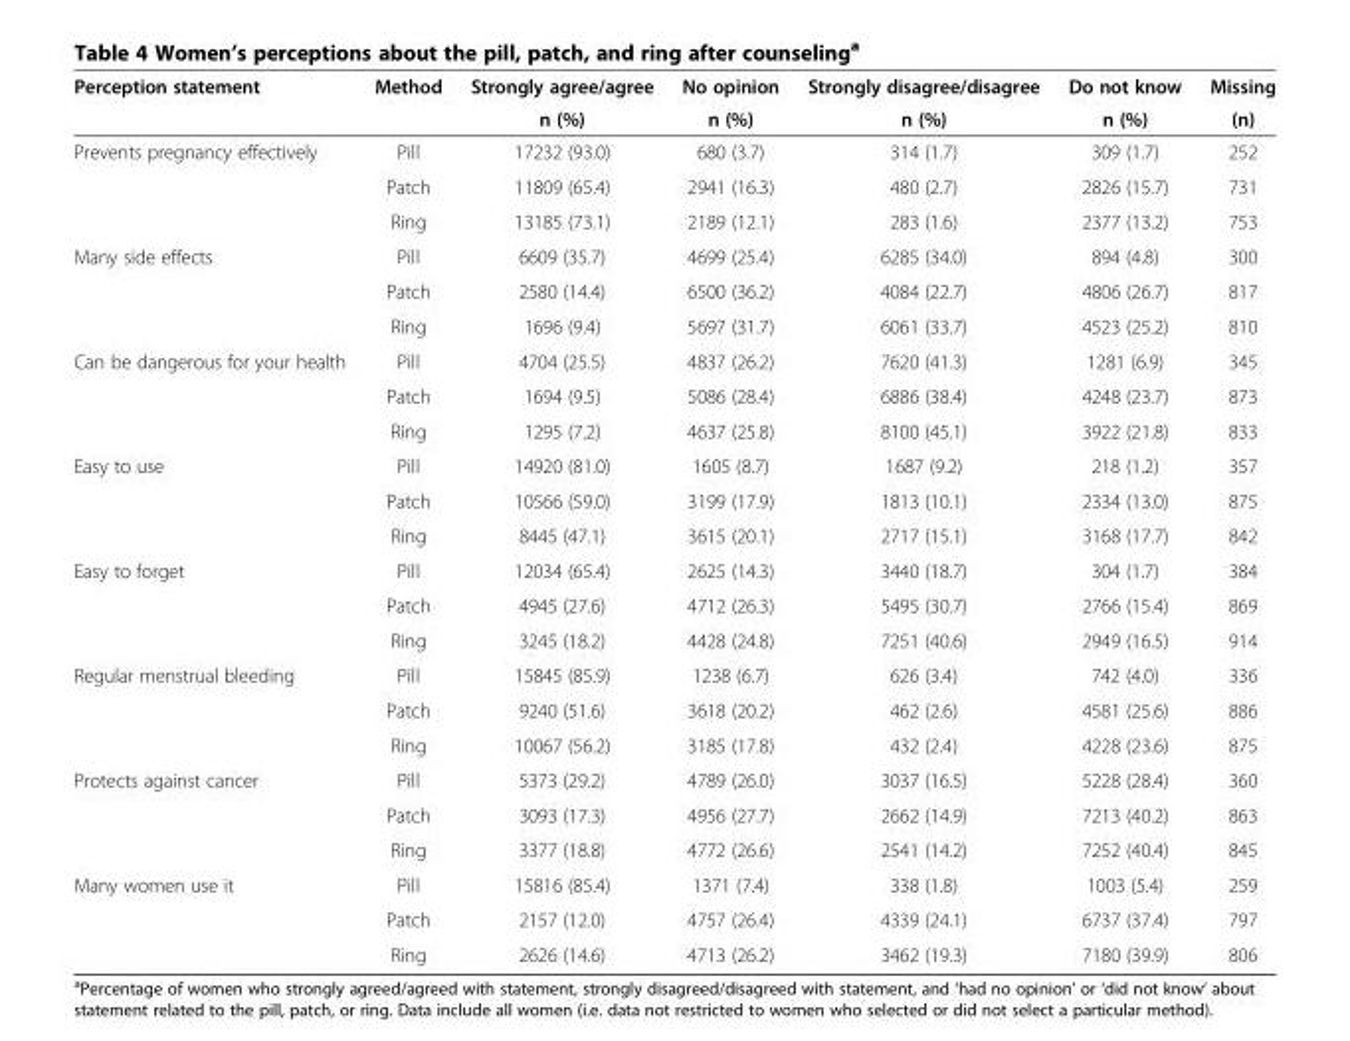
<table><thead><tr><td rowspan="2">Perception statement</td><td rowspan="2">Method</td><td rowspan="2">Strongly agree/agree n (%)</td><td rowspan="2">No opinion n (%)</td><td rowspan="2">Strongly disagree/disagree n (%)</td><td rowspan="2">Do not know n (%)</td><td rowspan="2">Missing (n)</td></tr><tr></tr></thead><tbody><tr><td rowspan="3">Prevents pregnancy effectively</td><td>Pill</td><td>17232 (93.0)</td><td>680 (3.7)</td><td>314 (1.7)</td><td>309 (1.7)</td><td>252</td></tr><tr><td>Patch</td><td>11809 (65.4)</td><td>2941 (16.3)</td><td>480 (2.7)</td><td>2826 (15.7)</td><td>731</td></tr><tr><td>Ring</td><td>13185 (73.1)</td><td>2189 (12.1)</td><td>283 (1.6)</td><td>2377 (13.2)</td><td>753</td></tr><tr><td rowspan="3">Many side effects</td><td>Pill</td><td>6609 (35.7)</td><td>4699 (25.4)</td><td>6285 (34.0)</td><td>894 (4.8)</td><td>300</td></tr><tr><td>Patch</td><td>2580 (14.4)</td><td>6500 (36.2)</td><td>4084 (22.7)</td><td>4806 (26.7)</td><td>817</td></tr><tr><td>Ring</td><td>1696 (9.4)</td><td>5697 (31.7)</td><td>6061 (33.7)</td><td>4523 (25.2)</td><td>810</td></tr><tr><td rowspan="3">Can be dangerous for your health</td><td>Pill</td><td>4704 (25.5)</td><td>4837 (26.2)</td><td>7620 (41.3)</td><td>1281 (6.9)</td><td>345</td></tr><tr><td>Patch</td><td>1694 (9.5)</td><td>5086 (28.4)</td><td>6886 (38.4)</td><td>4248 (23.7)</td><td>873</td></tr><tr><td>Ring</td><td>1295 (7.2)</td><td>4637 (25.8)</td><td>8100 (45.1)</td><td>3922 (21.8)</td><td>833</td></tr><tr><td rowspan="3">Easy to use</td><td>Pill</td><td>14920 (81.0)</td><td>1605 (8.7)</td><td>1687 (9.2)</td><td>218 (1.2)</td><td>357</td></tr><tr><td>Patch</td><td>10566 (59.0)</td><td>3199 (17.9)</td><td>1813 (10.1)</td><td>2334 (13.0)</td><td>875</td></tr><tr><td>Ring</td><td>8445 (47.1)</td><td>3615 (20.1)</td><td>2717 (15.1)</td><td>3168 (17.7)</td><td>842</td></tr><tr><td rowspan="3">Easy to forget</td><td>Pill</td><td>12034 (65.4)</td><td>2625 (14.3)</td><td>3440 (18.7)</td><td>304 (1.7)</td><td>384</td></tr><tr><td>Patch</td><td>4945 (27.6)</td><td>4712 (26.3)</td><td>5495 (30.7)</td><td>2766 (15.4)</td><td>869</td></tr><tr><td>Ring</td><td>3245 (18.2)</td><td>4428 (24.8)</td><td>7251 (40.6)</td><td>2949 (16.5)</td><td>914</td></tr><tr><td rowspan="3">Regular menstrual bleeding</td><td>Pill</td><td>15845 (85.9)</td><td>1238 (6.7)</td><td>626 (3.4)</td><td>742 (4.0)</td><td>336</td></tr><tr><td>Patch</td><td>9240 (51.6)</td><td>3618 (20.2)</td><td>462 (2.6)</td><td>4581 (25.6)</td><td>886</td></tr><tr><td>Ring</td><td>10067 (56.2)</td><td>3185 (17.8)</td><td>432 (2.4)</td><td>4228 (23.6)</td><td>875</td></tr><tr><td rowspan="3">Protects against cancer</td><td>Pill</td><td>5373 (29.2)</td><td>4789 (26.0)</td><td>3037 (16.5)</td><td>5228 (28.4)</td><td>360</td></tr><tr><td>Patch</td><td>3093 (17.3)</td><td>4956 (27.7)</td><td>2662 (14.9)</td><td>7213 (40.2)</td><td>863</td></tr><tr><td>Ring</td><td>3377 (18.8)</td><td>4772 (26.6)</td><td>2541 (14.2)</td><td>7252 (40.4)</td><td>845</td></tr><tr><td rowspan="3">Many women use it</td><td>Pill</td><td>15816 (85.4)</td><td>1371 (7.4)</td><td>338 (1.8)</td><td>1003 (5.4)</td><td>259</td></tr><tr><td>Patch</td><td>2157 (12.0)</td><td>4757 (26.4)</td><td>4339 (24.1)</td><td>6737 (37.4)</td><td>797</td></tr><tr><td>Ring</td><td>2626 (14.6)</td><td>4713 (26.2)</td><td>3462 (19.3)</td><td>7180 (39.9)</td><td>806</td></tr></tbody></table>